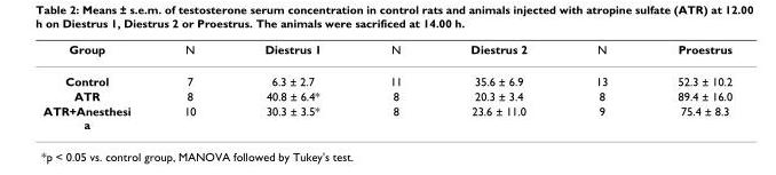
<table><thead><tr><td>Group</td><td>N</td><td>Diestrus 1</td><td>N</td><td>Diestrus 2</td><td>N</td><td>Proestrus</td></tr></thead><tbody><tr><td>Control</td><td>7</td><td>6.3 ± 2.7</td><td>11</td><td>35.6 ± 6.9</td><td>13</td><td>52.3 ± 10.2</td></tr><tr><td>ATR</td><td>8</td><td>40.8 ± 6.4*</td><td>8</td><td>20.3 ± 3.4</td><td>8</td><td>89.4 ± 16.0</td></tr><tr><td>ATR+Anesthesi a</td><td>10</td><td>30.3 ± 3.5*</td><td>8</td><td>23.6 ± 11.0</td><td>9</td><td>75.4 ± 8.3</td></tr></tbody></table>